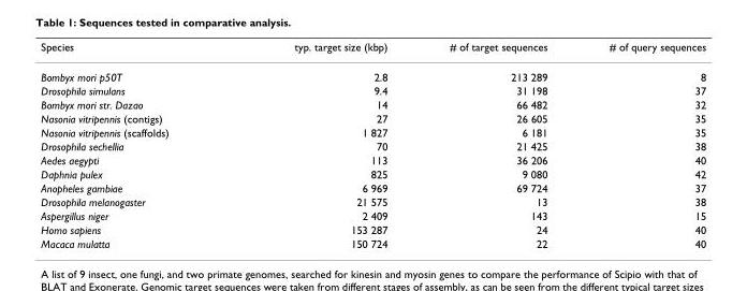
<table><thead><tr><td>Species</td><td>typ. target size (kbp)</td><td># of target sequences</td><td># of query sequences</td></tr></thead><tbody><tr><td>Bombyx mori p50T</td><td>2.8</td><td>213 289</td><td>8</td></tr><tr><td>Drosophila simulans</td><td>9.4</td><td>31 198</td><td>37</td></tr><tr><td>Bombyx mori str. Dazao</td><td>14</td><td>66 482</td><td>32</td></tr><tr><td>Nasonia vitripennis (contigs)</td><td>27</td><td>26 605</td><td>35</td></tr><tr><td>Nasonia vitripennis (scaffolds)</td><td>1 827</td><td>6 181</td><td>35</td></tr><tr><td>Drosophila sechellia</td><td>70</td><td>21 425</td><td>38</td></tr><tr><td>Aedes aegypti</td><td>113</td><td>36 206</td><td>40</td></tr><tr><td>Daphnia pulex</td><td>825</td><td>9 080</td><td>42</td></tr><tr><td>Anopheles gambiae</td><td>6 969</td><td>69 724</td><td>37</td></tr><tr><td>Drosophila melanogaster</td><td>21 575</td><td>13</td><td>38</td></tr><tr><td>Aspergillus niger</td><td>2 409</td><td>143</td><td>15</td></tr><tr><td>Homo sapiens</td><td>153 287</td><td>24</td><td>40</td></tr><tr><td>Macaca mulatta</td><td>150 724</td><td>22</td><td>40</td></tr></tbody></table>